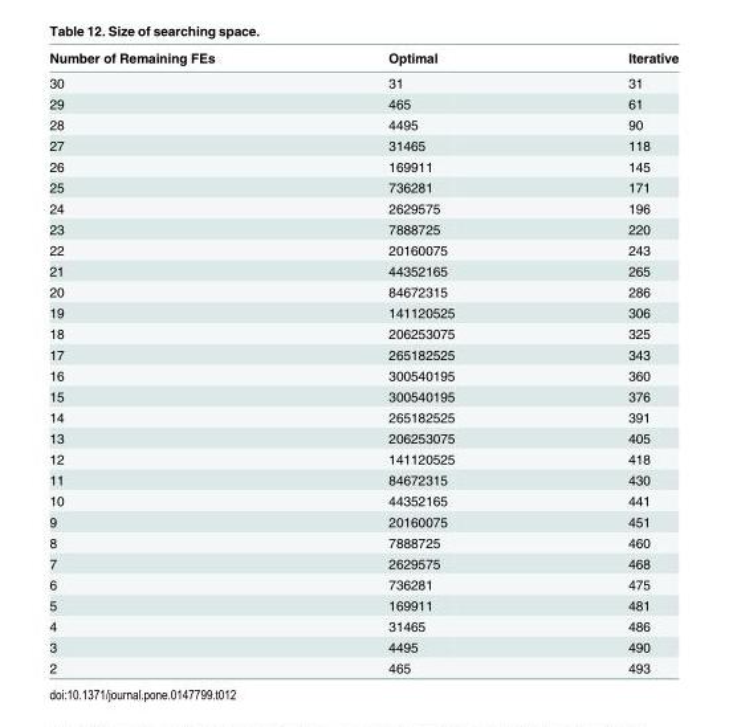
<table><thead><tr><td>Number of Remaining FEs</td><td>Optimal</td><td>Iterative</td></tr></thead><tbody><tr><td>30</td><td>31</td><td>31</td></tr><tr><td>29</td><td>465</td><td>61</td></tr><tr><td>28</td><td>4495</td><td>90</td></tr><tr><td>27</td><td>31465</td><td>118</td></tr><tr><td>26</td><td>169911</td><td>145</td></tr><tr><td>25</td><td>736281</td><td>171</td></tr><tr><td>24</td><td>2629575</td><td>196</td></tr><tr><td>23</td><td>7888725</td><td>220</td></tr><tr><td>22</td><td>20160075</td><td>243</td></tr><tr><td>21</td><td>44352165</td><td>265</td></tr><tr><td>20</td><td>84672315</td><td>286</td></tr><tr><td>19</td><td>141120525</td><td>306</td></tr><tr><td>18</td><td>206253075</td><td>325</td></tr><tr><td>17</td><td>265182525</td><td>343</td></tr><tr><td>16</td><td>300540195</td><td>360</td></tr><tr><td>15</td><td>300540195</td><td>376</td></tr><tr><td>14</td><td>265182525</td><td>391</td></tr><tr><td>13</td><td>206253075</td><td>405</td></tr><tr><td>12</td><td>141120525</td><td>418</td></tr><tr><td>11</td><td>84672315</td><td>430</td></tr><tr><td>10</td><td>44352165</td><td>441</td></tr><tr><td>9</td><td>20160075</td><td>451</td></tr><tr><td>8</td><td>7888725</td><td>460</td></tr><tr><td>7</td><td>2629575</td><td>468</td></tr><tr><td>6</td><td>736281</td><td>475</td></tr><tr><td>5</td><td>169911</td><td>481</td></tr><tr><td>4</td><td>31465</td><td>486</td></tr><tr><td>3</td><td>4495</td><td>490</td></tr><tr><td>2</td><td>465</td><td>493</td></tr></tbody></table>